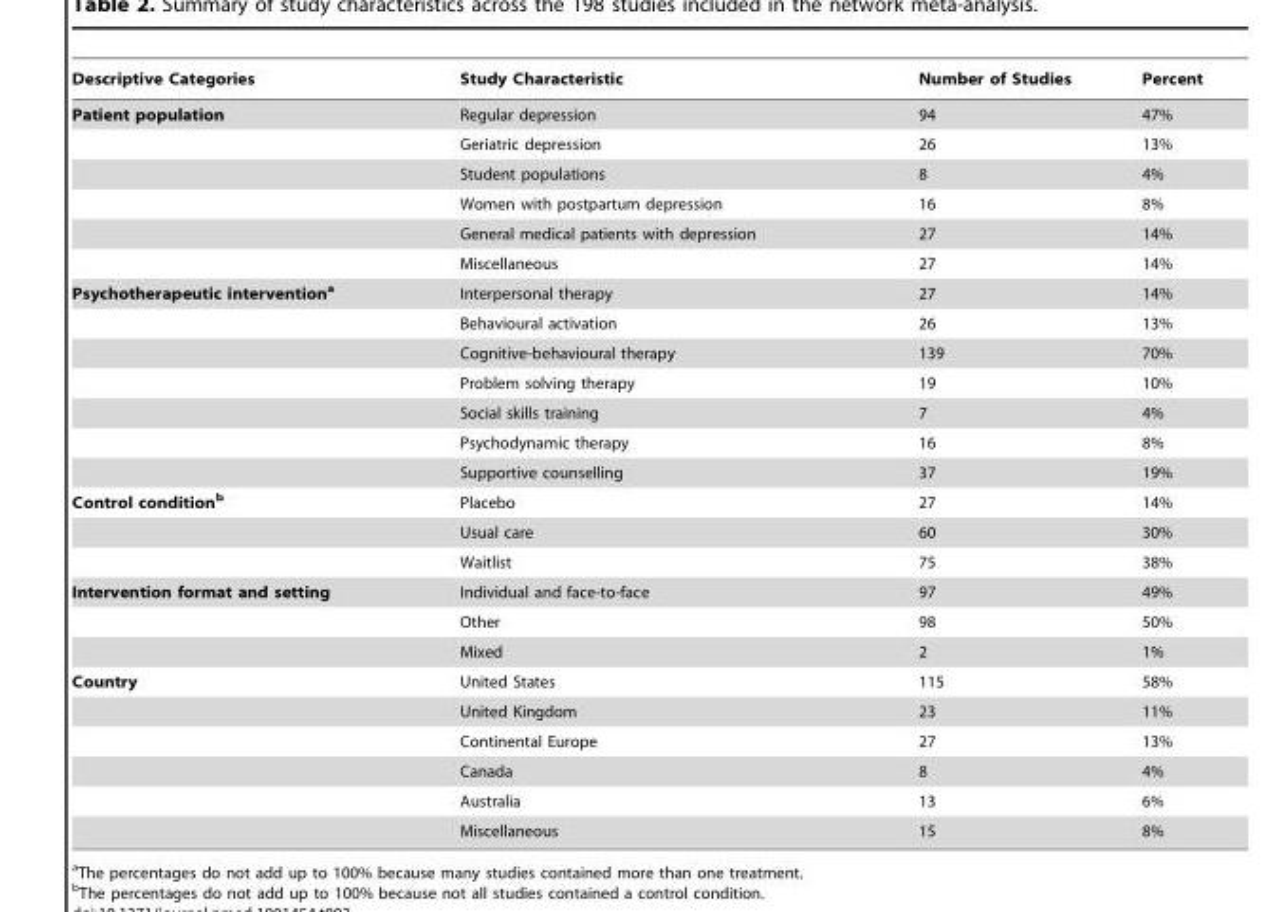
<table><thead><tr><td>Descriptive Categories</td><td>Study Characteristic</td><td>Number of Studies</td><td>Percent</td></tr></thead><tbody><tr><td rowspan="6">Patient population</td><td>Regular depression</td><td>94</td><td>47%</td></tr><tr><td>Geriatric depression</td><td>26</td><td>13%</td></tr><tr><td>Student populations</td><td>8</td><td>4%</td></tr><tr><td>Women with postpartum depression</td><td>16</td><td>8%</td></tr><tr><td>General medical patients with depression</td><td>27</td><td>14%</td></tr><tr><td>Miscellaneous</td><td>27</td><td>14%</td></tr><tr><td rowspan="7">Psychotherapeutic interventiona</td><td>Interpersonal therapy</td><td>27</td><td>14%</td></tr><tr><td>Behavioural activation</td><td>26</td><td>13%</td></tr><tr><td>Cognitive-behavioural therapy</td><td>139</td><td>70%</td></tr><tr><td>Problem solving therapy</td><td>19</td><td>10%</td></tr><tr><td>Social skills training</td><td>7</td><td>4%</td></tr><tr><td>Psychodynamic therapy</td><td>16</td><td>8%</td></tr><tr><td>Supportive counselling</td><td>37</td><td>19%</td></tr><tr><td rowspan="3">Control conditionb</td><td>Placebo</td><td>27</td><td>14%</td></tr><tr><td>Usual care</td><td>60</td><td>30%</td></tr><tr><td>Waitlist</td><td>75</td><td>38%</td></tr><tr><td rowspan="3">Intervention format and setting</td><td>Individual and face-to-face</td><td>97</td><td>49%</td></tr><tr><td>Other</td><td>98</td><td>50%</td></tr><tr><td>Mixed</td><td>2</td><td>1%</td></tr><tr><td rowspan="6">Country</td><td>United States</td><td>115</td><td>58%</td></tr><tr><td>United Kingdom</td><td>23</td><td>11%</td></tr><tr><td>Continental Europe</td><td>27</td><td>13%</td></tr><tr><td>Canada</td><td>8</td><td>4%</td></tr><tr><td>Australia</td><td>13</td><td>6%</td></tr><tr><td>Miscellaneous</td><td>15</td><td>8%</td></tr></tbody></table>